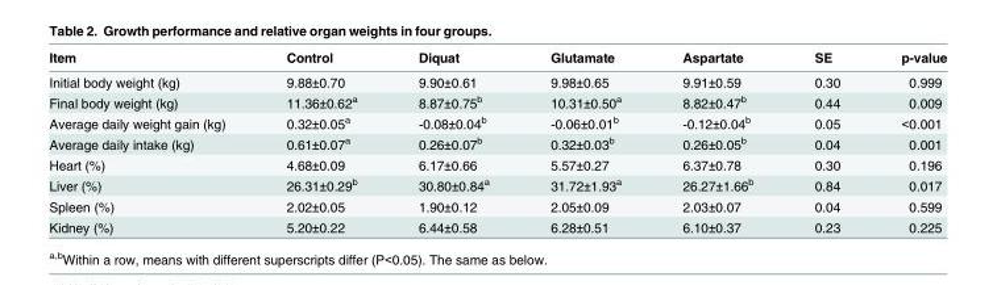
<table><thead><tr><td>Item</td><td>Control</td><td>Diquat</td><td>Glutamate</td><td>Aspartate</td><td>SE</td><td>p-value</td></tr></thead><tbody><tr><td>Initial body weight (kg)</td><td>9.88±0.70</td><td>9.90±0.61</td><td>9.98±0.65</td><td>9.91±0.59</td><td>0.30</td><td>0.999</td></tr><tr><td>Final body weight (kg)</td><td>11.36±0.62<sup>a</sup></td><td>8.87±0.75<sup>b</sup></td><td>10.31±0.50<sup>a</sup></td><td>8.82±0.47<sup>b</sup></td><td>0.44</td><td>0.009</td></tr><tr><td>Average daily weight gain (kg)</td><td>0.32±0.05<sup>a</sup></td><td>-0.08±0.04<sup>b</sup></td><td>-0.06±0.01<sup>b</sup></td><td>-0.12±0.04<sup>b</sup></td><td>0.05</td><td>&lt;0.001</td></tr><tr><td>Average daily intake (kg)</td><td>0.61±0.07<sup>a</sup></td><td>0.26±0.07<sup>b</sup></td><td>0.32±0.03<sup>b</sup></td><td>0.26±0.05<sup>b</sup></td><td>0.04</td><td>0.001</td></tr><tr><td>Heart (%)</td><td>4.68±0.09</td><td>6.17±0.66</td><td>5.57±0.27</td><td>6.37±0.78</td><td>0.30</td><td>0.196</td></tr><tr><td>Liver (%)</td><td>26.31±0.29<sup>b</sup></td><td>30.80±0.84<sup>a</sup></td><td>31.72±1.93<sup>a</sup></td><td>26.27±1.66<sup>b</sup></td><td>0.84</td><td>0.017</td></tr><tr><td>Spleen (%)</td><td>2.02±0.05</td><td>1.90±0.12</td><td>2.05±0.09</td><td>2.03±0.07</td><td>0.04</td><td>0.599</td></tr><tr><td>Kidney (%)</td><td>5.20±0.22</td><td>6.44±0.58</td><td>6.28±0.51</td><td>6.10±0.37</td><td>0.23</td><td>0.225</td></tr></tbody></table>